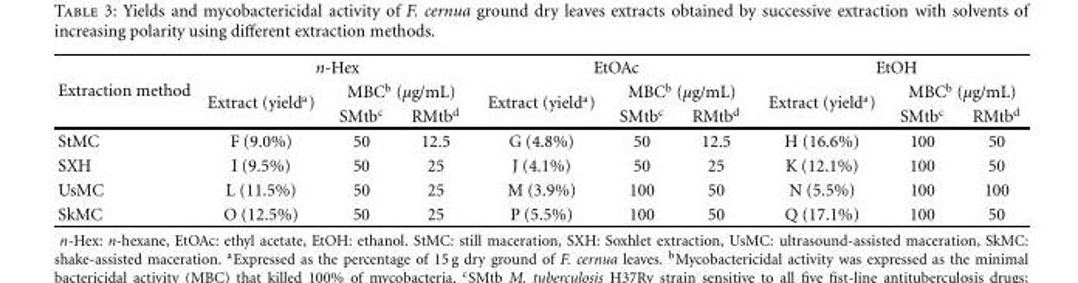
<table><thead><tr><td rowspan="3">Extraction method</td><td colspan="3">n-Hex</td><td colspan="3">EtOAc</td><td colspan="3">EtOH</td></tr><tr><td rowspan="2">Extract (yield<sup>a</sup>)</td><td colspan="2">MBC<sup>b</sup> (µg/mL)</td><td rowspan="2">Extract (yield<sup>a</sup>)</td><td colspan="2">MBC<sup>b</sup> (µg/mL)</td><td rowspan="2">Extract (yield<sup>a</sup>)</td><td colspan="2">MBC<sup>b</sup> (µg/mL)</td></tr><tr><td>SMtb<sup>c</sup></td><td>RMtb<sup>d</sup></td><td>SMtb<sup>c</sup></td><td>RMtb<sup>d</sup></td><td>SMtb<sup>c</sup></td><td>RMtb<sup>d</sup></td></tr></thead><tbody><tr><td>StMC</td><td>F (9.0%)</td><td>50</td><td>12.5</td><td>G (4.8%)</td><td>50</td><td>12.5</td><td>H (16.6%)</td><td>100</td><td>50</td></tr><tr><td>SXH</td><td>I (9.5%)</td><td>50</td><td>25</td><td>J (4.1%)</td><td>50</td><td>25</td><td>K (12.1%)</td><td>100</td><td>50</td></tr><tr><td>UsMC</td><td>L (11.5%)</td><td>50</td><td>25</td><td>M (3.9%)</td><td>100</td><td>50</td><td>N (5.5%)</td><td>100</td><td>100</td></tr><tr><td>SkMC</td><td>O (12.5%)</td><td>50</td><td>25</td><td>P (5.5%)</td><td>100</td><td>50</td><td>Q (17.1%)</td><td>100</td><td>50</td></tr></tbody></table>